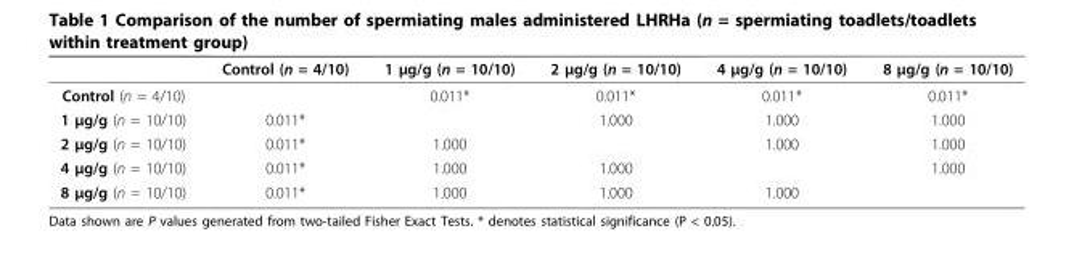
<table><thead><tr><td></td><td>Control (n = 4/10)</td><td>1 μg/g (n = 10/10)</td><td>2 μg/g (n = 10/10)</td><td>4 μg/g (n = 10/10)</td><td>8 μg/g (n = 10/10)</td></tr></thead><tbody><tr><td>Control (n = 4/10)</td><td></td><td>0.011*</td><td>0.011*</td><td>0.011*</td><td>0.011*</td></tr><tr><td>1 μg/g (n = 10/10)</td><td>0.011*</td><td></td><td>1.000</td><td>1.000</td><td>1.000</td></tr><tr><td>2 μg/g (n = 10/10)</td><td>0.011*</td><td>1.000</td><td></td><td>1.000</td><td>1.000</td></tr><tr><td>4 μg/g (n = 10/10)</td><td>0.011*</td><td>1.000</td><td>1.000</td><td></td><td>1.000</td></tr><tr><td>8 μg/g (n = 10/10)</td><td>0.011*</td><td>1.000</td><td>1.000</td><td>1.000</td><td></td></tr></tbody></table>